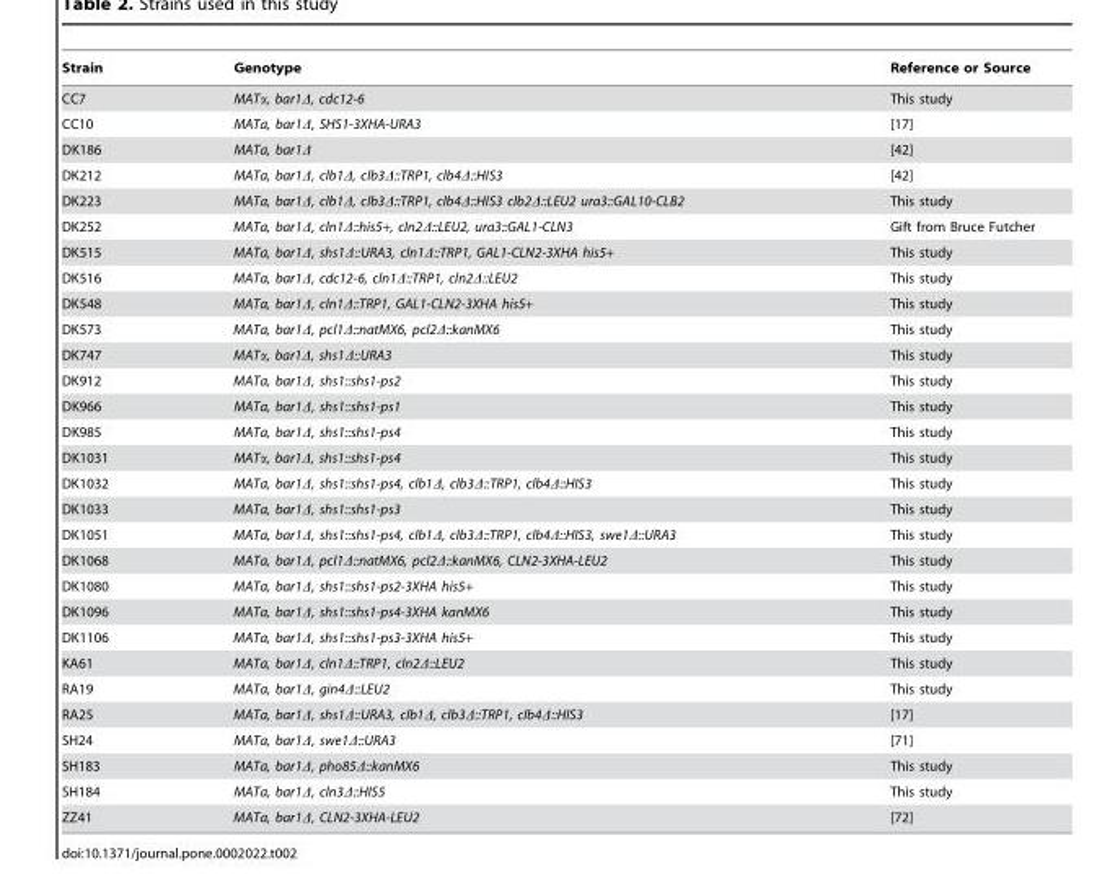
<table><thead><tr><td>Strain</td><td>Genotype</td><td>Reference or Source</td></tr></thead><tbody><tr><td>CC7</td><td>MATα, bar1Δ, cdc12-6</td><td>This study</td></tr><tr><td>CC10</td><td>MATa, bar1Δ, SHS1-3XHA-URA3</td><td>[17]</td></tr><tr><td>DK186</td><td>MATa, bar1Δ</td><td>[42]</td></tr><tr><td>DK212</td><td>MATa, bar1Δ, clb1Δ, clb3Δ::TRP1, clb4Δ::HIS3</td><td>[42]</td></tr><tr><td>DK223</td><td>MATa, bar1Δ, clb1Δ, clb3Δ::TRP1, clb4Δ::HIS3 clb2Δ::LEU2 ura3::GAL10-CLB2</td><td>This study</td></tr><tr><td>DK252</td><td>MATa, bar1Δ, cln1Δ::his5+, cln2Δ::LEU2, ura3::GAL1-CLN3</td><td>Gift from Bruce Futcher</td></tr><tr><td>DK515</td><td>MATa, bar1Δ, shs1Δ::URA3, cln1Δ::TRP1, GAL1-CLN2-3XHA his5+</td><td>This study</td></tr><tr><td>DK516</td><td>MATa, bar1Δ, cdc12-6, cln1Δ::TRP1, cln2Δ::LEU2</td><td>This study</td></tr><tr><td>DK548</td><td>MATa, bar1Δ, cln1Δ::TRP1, GAL1-CLN2-3XHA his5+</td><td>This study</td></tr><tr><td>DK573</td><td>MATa, bar1Δ, pcl1Δ::natMX6, pcl2Δ::kanMX6</td><td>This study</td></tr><tr><td>DK747</td><td>MATα, bar1Δ, shs1Δ::URA3</td><td>This study</td></tr><tr><td>DK912</td><td>MATa, bar1Δ, shs1::shs1-ps2</td><td>This study</td></tr><tr><td>DK966</td><td>MATa, bar1Δ, shs1::shs1-ps1</td><td>This study</td></tr><tr><td>DK985</td><td>MATa, bar1Δ, shs1::shs1-ps4</td><td>This study</td></tr><tr><td>DK1031</td><td>MATα, bar1Δ, shs1::shs1-ps4</td><td>This study</td></tr><tr><td>DK1032</td><td>MATa, bar1Δ, shs1::shs1-ps4, clb1Δ, clb3Δ::TRP1, clb4Δ::HIS3</td><td>This study</td></tr><tr><td>DK1033</td><td>MATa, bar1Δ, shs1::shs1-ps3</td><td>This study</td></tr><tr><td>DK1051</td><td>MATa, bar1Δ, shs1::shs1-ps4, clb1Δ, clb3Δ::TRP1, clb4Δ::HIS3, swe1Δ::URA3</td><td>This study</td></tr><tr><td>DK1068</td><td>MATa, bar1Δ, pcl1Δ::natMX6, pcl2Δ::kanMX6, CLN2-3XHA-LEU2</td><td>This study</td></tr><tr><td>DK1080</td><td>MATa, bar1Δ, shs1::shs1-ps2-3XHA his5+</td><td>This study</td></tr><tr><td>DK1096</td><td>MATa, bar1Δ, shs1::shs1-ps4-3XHA kanMX6</td><td>This study</td></tr><tr><td>DK1106</td><td>MATa, bar1Δ, shs1::shs1-ps3-3XHA his5+</td><td>This study</td></tr><tr><td>KA61</td><td>MATa, bar1Δ, cln1Δ::TRP1, cln2Δ::LEU2</td><td>This study</td></tr><tr><td>RA19</td><td>MATa, bar1Δ, gin4Δ::LEU2</td><td>This study</td></tr><tr><td>RA25</td><td>MATa, bar1Δ, shs1Δ::URA3, clb1Δ, clb3Δ::TRP1, clb4Δ::HIS3</td><td>[17]</td></tr><tr><td>SH24</td><td>MATa, bar1Δ, swe1Δ::URA3</td><td>[71]</td></tr><tr><td>SH183</td><td>MATa, bar1Δ, pho85Δ::kanMX6</td><td>This study</td></tr><tr><td>SH184</td><td>MATa, bar1Δ, cln3Δ::HIS5</td><td>This study</td></tr><tr><td>ZZ41</td><td>MATa, bar1Δ, CLN2-3XHA-LEU2</td><td>[72]</td></tr></tbody></table>